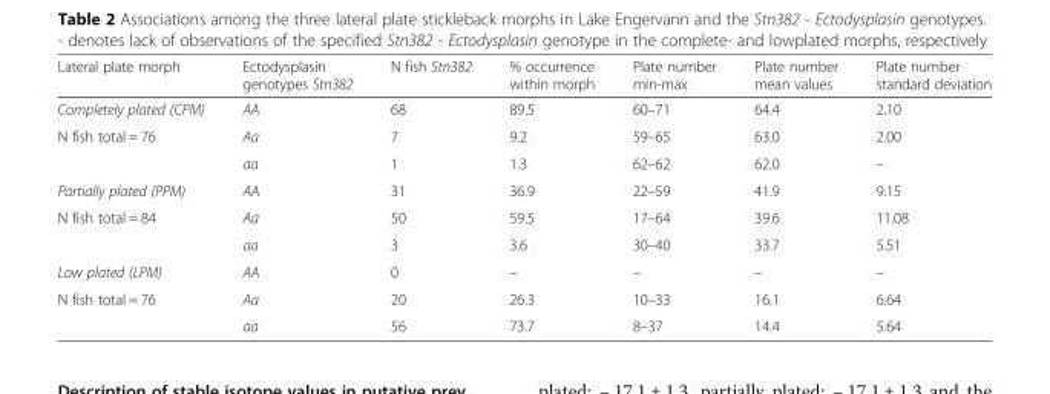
<table><thead><tr><td>Lateral plate morph</td><td>Ectodysplasin genotypes Stn382</td><td>N fish Stn382</td><td>% occurrence within morph</td><td>Plate number min-max</td><td>Plate number mean values</td><td>Plate number standard deviation</td></tr></thead><tbody><tr><td>Completely plated (CPM)</td><td>AA</td><td>68</td><td>89.5</td><td>60–71</td><td>64.4</td><td>2.10</td></tr><tr><td rowspan="2">N fish total = 76</td><td>Aa</td><td>7</td><td>9.2</td><td>59–65</td><td>63.0</td><td>2.00</td></tr><tr><td>aa</td><td>1</td><td>1.3</td><td>62–62</td><td>62.0</td><td>–</td></tr><tr><td>Partially plated (PPM)</td><td>AA</td><td>31</td><td>36.9</td><td>22–59</td><td>41.9</td><td>9.15</td></tr><tr><td rowspan="2">N fish total = 84</td><td>Aa</td><td>50</td><td>59.5</td><td>17–64</td><td>39.6</td><td>11.08</td></tr><tr><td>aa</td><td>3</td><td>3.6</td><td>30–40</td><td>33.7</td><td>5.51</td></tr><tr><td>Low plated (LPM)</td><td>AA</td><td>0</td><td>–</td><td>–</td><td>–</td><td>–</td></tr><tr><td rowspan="2">N fish total = 76</td><td>Aa</td><td>20</td><td>26.3</td><td>10–33</td><td>16.1</td><td>6.64</td></tr><tr><td>aa</td><td>56</td><td>73.7</td><td>8–37</td><td>14.4</td><td>5.64</td></tr></tbody></table>